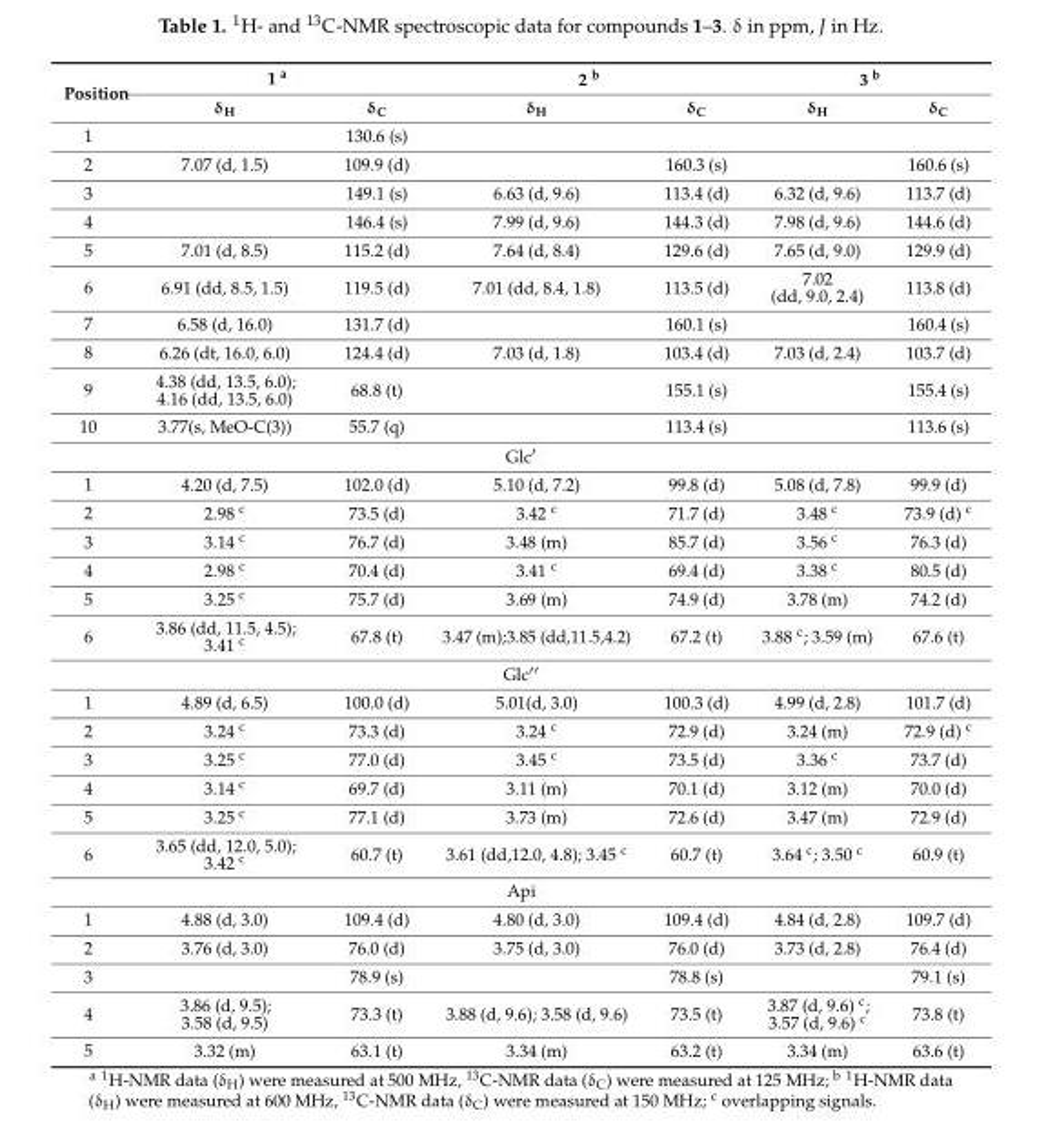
<table><thead><tr><td rowspan="2">Position</td><td colspan="2">1 <sup>a</sup></td><td colspan="2">2 <sup>b</sup></td><td colspan="2">3 <sup>b</sup></td></tr><tr><td>δ<sub>H</sub></td><td>δ<sub>C</sub></td><td>δ<sub>H</sub></td><td>δ<sub>C</sub></td><td>δ<sub>H</sub></td><td>δ<sub>C</sub></td></tr></thead><tbody><tr><td>1</td><td></td><td>130.6 (s)</td><td></td><td></td><td></td><td></td></tr><tr><td>2</td><td>7.07 (d, 1.5)</td><td>109.9 (d)</td><td></td><td>160.3 (s)</td><td></td><td>160.6 (s)</td></tr><tr><td>3</td><td></td><td>149.1 (s)</td><td>6.63 (d, 9.6)</td><td>113.4 (d)</td><td>6.32 (d, 9.6)</td><td>113.7 (d)</td></tr><tr><td>4</td><td></td><td>146.4 (s)</td><td>7.99 (d, 9.6)</td><td>144.3 (d)</td><td>7.98 (d, 9.6)</td><td>144.6 (d)</td></tr><tr><td>5</td><td>7.01 (d, 8.5)</td><td>115.2 (d)</td><td>7.64 (d, 8.4)</td><td>129.6 (d)</td><td>7.65 (d, 9.0)</td><td>129.9 (d)</td></tr><tr><td>6</td><td>6.91 (dd, 8.5, 1.5)</td><td>119.5 (d)</td><td>7.01 (dd, 8.4, 1.8)</td><td>113.5 (d)</td><td>7.02 (dd, 9.0, 2.4)</td><td>113.8 (d)</td></tr><tr><td>7</td><td>6.58 (d, 16.0)</td><td>131.7 (d)</td><td></td><td>160.1 (s)</td><td></td><td>160.4 (s)</td></tr><tr><td>8</td><td>6.26 (dt, 16.0, 6.0)</td><td>124.4 (d)</td><td>7.03 (d, 1.8)</td><td>103.4 (d)</td><td>7.03 (d, 2.4)</td><td>103.7 (d)</td></tr><tr><td>9</td><td>4.38 (dd, 13.5, 6.0); 4.16 (dd, 13.5, 6.0)</td><td>68.8 (t)</td><td></td><td>155.1 (s)</td><td></td><td>155.4 (s)</td></tr><tr><td>10</td><td>3.77(s, MeO-C(3))</td><td>55.7 (q)</td><td></td><td>113.4 (s)</td><td></td><td>113.6 (s)</td></tr><tr><td colspan="7">Glc′</td></tr><tr><td>1</td><td>4.20 (d, 7.5)</td><td>102.0 (d)</td><td>5.10 (d, 7.2)</td><td>99.8 (d)</td><td>5.08 (d, 7.8)</td><td>99.9 (d)</td></tr><tr><td>2</td><td>2.98 <sup>c</sup></td><td>73.5 (d)</td><td>3.42 <sup>c</sup></td><td>71.7 (d)</td><td>3.48 <sup>c</sup></td><td>73.9 (d) <sup>c</sup></td></tr><tr><td>3</td><td>3.14 <sup>c</sup></td><td>76.7 (d)</td><td>3.48 (m)</td><td>85.7 (d)</td><td>3.56 <sup>c</sup></td><td>76.3 (d)</td></tr><tr><td>4</td><td>2.98 <sup>c</sup></td><td>70.4 (d)</td><td>3.41 <sup>c</sup></td><td>69.4 (d)</td><td>3.38 <sup>c</sup></td><td>80.5 (d)</td></tr><tr><td>5</td><td>3.25 <sup>c</sup></td><td>75.7 (d)</td><td>3.69 (m)</td><td>74.9 (d)</td><td>3.78 (m)</td><td>74.2 (d)</td></tr><tr><td>6</td><td>3.86 (dd, 11.5, 4.5); 3.41 <sup>c</sup></td><td>67.8 (t)</td><td>3.47 (m);3.85 (dd,11.5,4.2)</td><td>67.2 (t)</td><td>3.88 <sup>c</sup>; 3.59 (m)</td><td>67.6 (t)</td></tr><tr><td colspan="7">Glc′′</td></tr><tr><td>1</td><td>4.89 (d, 6.5)</td><td>100.0 (d)</td><td>5.01(d, 3.0)</td><td>100.3 (d)</td><td>4.99 (d, 2.8)</td><td>101.7 (d)</td></tr><tr><td>2</td><td>3.24 <sup>c</sup></td><td>73.3 (d)</td><td>3.24 <sup>c</sup></td><td>72.9 (d)</td><td>3.24 (m)</td><td>72.9 (d) <sup>c</sup></td></tr><tr><td>3</td><td>3.25 <sup>c</sup></td><td>77.0 (d)</td><td>3.45 <sup>c</sup></td><td>73.5 (d)</td><td>3.36 <sup>c</sup></td><td>73.7 (d)</td></tr><tr><td>4</td><td>3.14 <sup>c</sup></td><td>69.7 (d)</td><td>3.11 (m)</td><td>70.1 (d)</td><td>3.12 (m)</td><td>70.0 (d)</td></tr><tr><td>5</td><td>3.25 <sup>c</sup></td><td>77.1 (d)</td><td>3.73 (m)</td><td>72.6 (d)</td><td>3.47 (m)</td><td>72.9 (d)</td></tr><tr><td>6</td><td>3.65 (dd, 12.0, 5.0); 3.42 <sup>c</sup></td><td>60.7 (t)</td><td>3.61 (dd,12.0, 4.8); 3.45 <sup>c</sup></td><td>60.7 (t)</td><td>3.64 <sup>c</sup>; 3.50 <sup>c</sup></td><td>60.9 (t)</td></tr><tr><td colspan="7">Api</td></tr><tr><td>1</td><td>4.88 (d, 3.0)</td><td>109.4 (d)</td><td>4.80 (d, 3.0)</td><td>109.4 (d)</td><td>4.84 (d, 2.8)</td><td>109.7 (d)</td></tr><tr><td>2</td><td>3.76 (d, 3.0)</td><td>76.0 (d)</td><td>3.75 (d, 3.0)</td><td>76.0 (d)</td><td>3.73 (d, 2.8)</td><td>76.4 (d)</td></tr><tr><td>3</td><td></td><td>78.9 (s)</td><td></td><td>78.8 (s)</td><td></td><td>79.1 (s)</td></tr><tr><td>4</td><td>3.86 (d, 9.5); 3.58 (d, 9.5)</td><td>73.3 (t)</td><td>3.88 (d, 9.6); 3.58 (d, 9.6)</td><td>73.5 (t)</td><td>3.87 (d, 9.6) <sup>c</sup>; 3.57 (d, 9.6) <sup>c</sup></td><td>73.8 (t)</td></tr><tr><td>5</td><td>3.32 (m)</td><td>63.1 (t)</td><td>3.34 (m)</td><td>63.2 (t)</td><td>3.34 (m)</td><td>63.6 (t)</td></tr></tbody></table>